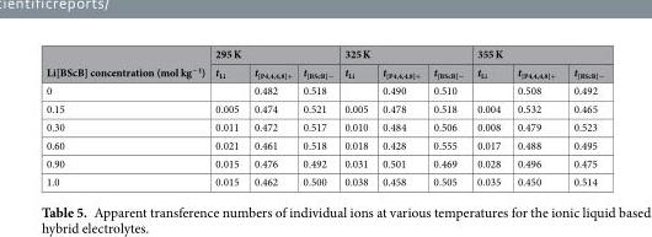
<table><thead><tr><td rowspan="2">Li[BScB] concentration (mol kg<sup>−1</sup>)</td><td colspan="3">295 K</td><td colspan="3">325 K</td><td colspan="3">355 K</td></tr><tr><td>t<sub>Li</sub></td><td>t<sub>[P4,4,4,8]+</sub></td><td>t<sub>[BScB]−</sub></td><td>t<sub>Li</sub></td><td>t<sub>[P4,4,4,8]+</sub></td><td>t<sub>[BScB]−</sub></td><td>t<sub>Li</sub></td><td>t<sub>[P4,4,4,8]+</sub></td><td>t<sub>[BScB]−</sub></td></tr></thead><tbody><tr><td>0</td><td></td><td>0.482</td><td>0.518</td><td></td><td>0.490</td><td>0.510</td><td></td><td>0.508</td><td>0.492</td></tr><tr><td>0.15</td><td>0.005</td><td>0.474</td><td>0.521</td><td>0.005</td><td>0.478</td><td>0.518</td><td>0.004</td><td>0.532</td><td>0.465</td></tr><tr><td>0.30</td><td>0.011</td><td>0.472</td><td>0.517</td><td>0.010</td><td>0.484</td><td>0.506</td><td>0.008</td><td>0.479</td><td>0.523</td></tr><tr><td>0.60</td><td>0.021</td><td>0.461</td><td>0.518</td><td>0.018</td><td>0.428</td><td>0.555</td><td>0.017</td><td>0.488</td><td>0.495</td></tr><tr><td>0.90</td><td>0.015</td><td>0.476</td><td>0.492</td><td>0.031</td><td>0.501</td><td>0.469</td><td>0.028</td><td>0.496</td><td>0.475</td></tr><tr><td>1.0</td><td>0.015</td><td>0.462</td><td>0.500</td><td>0.038</td><td>0.458</td><td>0.505</td><td>0.035</td><td>0.450</td><td>0.514</td></tr></tbody></table>